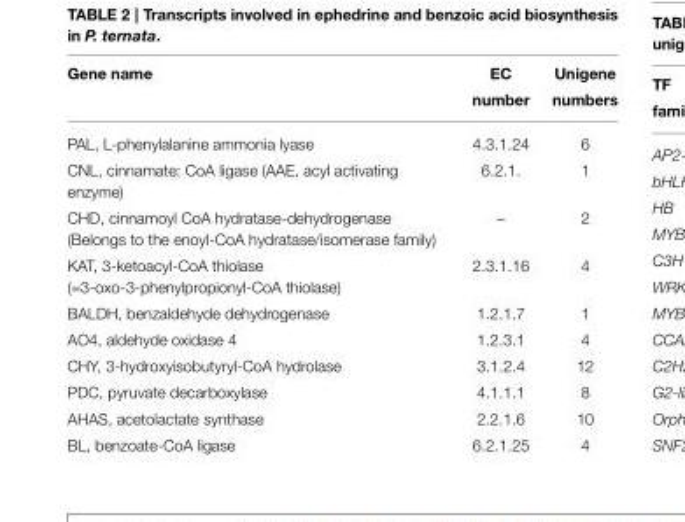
<table><thead><tr><td>Gene name</td><td>EC number</td><td>Unigene numbers</td></tr></thead><tbody><tr><td>PAL, L-phenylalanine ammonia lyase</td><td>4.3.1.24</td><td>6</td></tr><tr><td>CNL, cinnamate: CoA ligase (AAE, acyl activating enzyme)</td><td>6.2.1.</td><td>1</td></tr><tr><td>CHD, cinnamoyl CoA hydratase-dehydrogenase (Belongs to the enoyl-CoA hydratase/isomerase family)</td><td>–</td><td>2</td></tr><tr><td>KAT, 3-ketoacyl-CoA thiolase (=3-oxo-3-phenylpropionyl-CoA thiolase)</td><td>2.3.1.16</td><td>4</td></tr><tr><td>BALDH, benzaldehyde dehydrogenase</td><td>1.2.1.7</td><td>1</td></tr><tr><td>AO4, aldehyde oxidase 4</td><td>1.2.3.1</td><td>4</td></tr><tr><td>CHY, 3-hydroxyisobutyryl-CoA hydrolase</td><td>3.1.2.4</td><td>12</td></tr><tr><td>PDC, pyruvate decarboxylase</td><td>4.1.1.1</td><td>8</td></tr><tr><td>AHAS, acetolactate synthase</td><td>2.2.1.6</td><td>10</td></tr><tr><td>BL, benzoate-CoA ligase</td><td>6.2.1.25</td><td>4</td></tr></tbody></table>